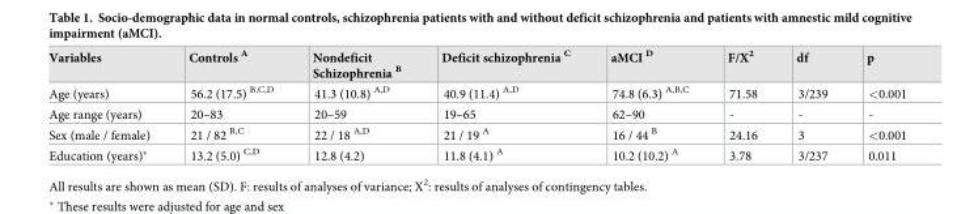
<table><thead><tr><td>Variables</td><td>Controls <sup>A</sup></td><td>Nondeficit Schizophrenia <sup>B</sup></td><td>Deficit schizophrenia <sup>C</sup></td><td>aMCI <sup>D</sup></td><td>F/X<sup>2</sup></td><td>df</td><td>p</td></tr></thead><tbody><tr><td>Age (years)</td><td>56.2 (17.5) <sup>B,C,D</sup></td><td>41.3 (10.8) <sup>A,D</sup></td><td>40.9 (11.4) <sup>A,D</sup></td><td>74.8 (6.3) <sup>A,B,C</sup></td><td>71.58</td><td>3/239</td><td>&lt;0.001</td></tr><tr><td>Age range (years)</td><td>20–83</td><td>20–59</td><td>19–65</td><td>62–90</td><td>-</td><td>-</td><td>-</td></tr><tr><td>Sex (male / female)</td><td>21 / 82 <sup>B,C</sup></td><td>22 / 18 <sup>A,D</sup></td><td>21 / 19 <sup>A</sup></td><td>16 / 44 <sup>B</sup></td><td>24.16</td><td>3</td><td>&lt;0.001</td></tr><tr><td>Education (years)*</td><td>13.2 (5.0) <sup>C,D</sup></td><td>12.8 (4.2)</td><td>11.8 (4.1) <sup>A</sup></td><td>10.2 (10.2) <sup>A</sup></td><td>3.78</td><td>3/237</td><td>0.011</td></tr></tbody></table>